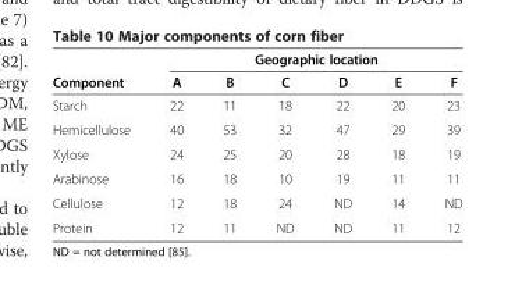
<table><thead><tr><td rowspan="2">Component</td><td colspan="6">Geographic location</td></tr><tr><td>A</td><td>B</td><td>C</td><td>D</td><td>E</td><td>F</td></tr></thead><tbody><tr><td>Starch</td><td>22</td><td>11</td><td>18</td><td>22</td><td>20</td><td>23</td></tr><tr><td>Hemicellulose</td><td>40</td><td>53</td><td>32</td><td>47</td><td>29</td><td>39</td></tr><tr><td>Xylose</td><td>24</td><td>25</td><td>20</td><td>28</td><td>18</td><td>19</td></tr><tr><td>Arabinose</td><td>16</td><td>18</td><td>10</td><td>19</td><td>11</td><td>11</td></tr><tr><td>Cellulose</td><td>12</td><td>18</td><td>24</td><td>ND</td><td>14</td><td>ND</td></tr><tr><td>Protein</td><td>12</td><td>11</td><td>ND</td><td>ND</td><td>11</td><td>12</td></tr></tbody></table>